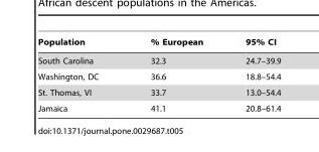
<table><thead><tr><td>Population</td><td>% European</td><td>95% CI</td></tr></thead><tbody><tr><td>South Carolina</td><td>32.3</td><td>24.7–39.9</td></tr><tr><td>Washington, DC</td><td>36.6</td><td>18.8–54.4</td></tr><tr><td>St. Thomas, VI</td><td>33.7</td><td>13.0–54.4</td></tr><tr><td>Jamaica</td><td>41.1</td><td>20.8–61.4</td></tr></tbody></table>